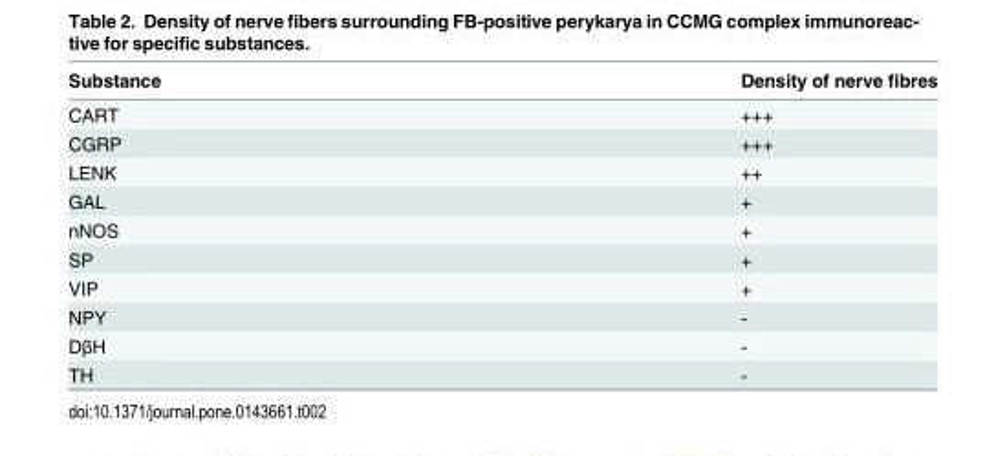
<table><thead><tr><td>Substance</td><td>Density of nerve fibres</td></tr></thead><tbody><tr><td>CART</td><td>+++</td></tr><tr><td>CGRP</td><td>+++</td></tr><tr><td>LENK</td><td>++</td></tr><tr><td>GAL</td><td>+</td></tr><tr><td>nNOS</td><td>+</td></tr><tr><td>SP</td><td>+</td></tr><tr><td>VIP</td><td>+</td></tr><tr><td>NPY</td><td>-</td></tr><tr><td>DβH</td><td>-</td></tr><tr><td>TH</td><td>-</td></tr></tbody></table>